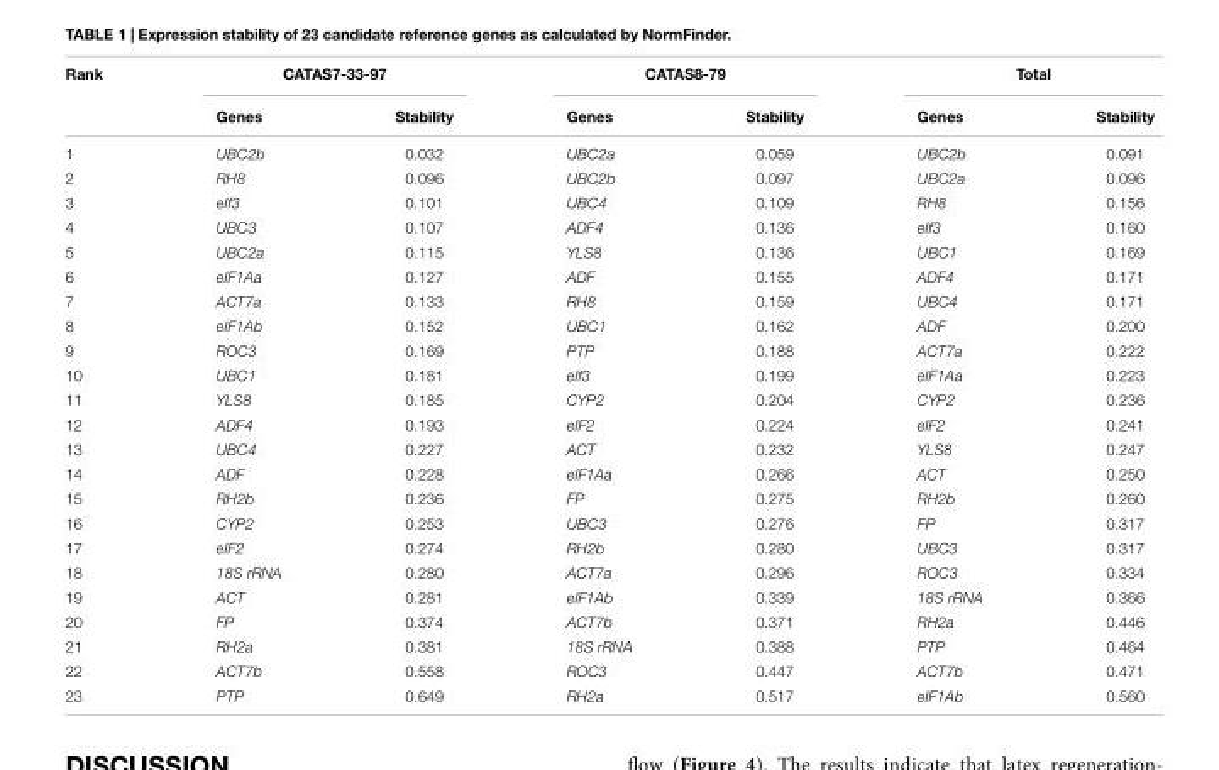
<table><thead><tr><td rowspan="2">Rank</td><td colspan="2">CATAS7-33-97</td><td colspan="2">CATAS8-79</td><td colspan="2">Total</td></tr><tr><td>Genes</td><td>Stability</td><td>Genes</td><td>Stability</td><td>Genes</td><td>Stability</td></tr></thead><tbody><tr><td>1</td><td>UBC2b</td><td>0.032</td><td>UBC2a</td><td>0.059</td><td>UBC2b</td><td>0.091</td></tr><tr><td>2</td><td>RH8</td><td>0.096</td><td>UBC2b</td><td>0.097</td><td>UBC2a</td><td>0.096</td></tr><tr><td>3</td><td>eIf3</td><td>0.101</td><td>UBC4</td><td>0.109</td><td>RH8</td><td>0.156</td></tr><tr><td>4</td><td>UBC3</td><td>0.107</td><td>ADF4</td><td>0.136</td><td>eIf3</td><td>0.160</td></tr><tr><td>5</td><td>UBC2a</td><td>0.115</td><td>YLS8</td><td>0.136</td><td>UBC1</td><td>0.169</td></tr><tr><td>6</td><td>eIF1Aa</td><td>0.127</td><td>ADF</td><td>0.155</td><td>ADF4</td><td>0.171</td></tr><tr><td>7</td><td>ACT7a</td><td>0.133</td><td>RH8</td><td>0.159</td><td>UBC4</td><td>0.171</td></tr><tr><td>8</td><td>eIF1Ab</td><td>0.152</td><td>UBC1</td><td>0.162</td><td>ADF</td><td>0.200</td></tr><tr><td>9</td><td>ROC3</td><td>0.169</td><td>PTP</td><td>0.188</td><td>ACT7a</td><td>0.222</td></tr><tr><td>10</td><td>UBC1</td><td>0.181</td><td>eIf3</td><td>0.199</td><td>eIF1Aa</td><td>0.223</td></tr><tr><td>11</td><td>YLS8</td><td>0.185</td><td>CYP2</td><td>0.204</td><td>CYP2</td><td>0.236</td></tr><tr><td>12</td><td>ADF4</td><td>0.193</td><td>eIF2</td><td>0.224</td><td>eIF2</td><td>0.241</td></tr><tr><td>13</td><td>UBC4</td><td>0.227</td><td>ACT</td><td>0.232</td><td>YLS8</td><td>0.247</td></tr><tr><td>14</td><td>ADF</td><td>0.228</td><td>eIF1Aa</td><td>0.266</td><td>ACT</td><td>0.250</td></tr><tr><td>15</td><td>RH2b</td><td>0.236</td><td>FP</td><td>0.275</td><td>RH2b</td><td>0.260</td></tr><tr><td>16</td><td>CYP2</td><td>0.253</td><td>UBC3</td><td>0.276</td><td>FP</td><td>0.317</td></tr><tr><td>17</td><td>eIF2</td><td>0.274</td><td>RH2b</td><td>0.280</td><td>UBC3</td><td>0.317</td></tr><tr><td>18</td><td>18S rRNA</td><td>0.280</td><td>ACT7a</td><td>0.296</td><td>ROC3</td><td>0.334</td></tr><tr><td>19</td><td>ACT</td><td>0.281</td><td>eIF1Ab</td><td>0.339</td><td>18S rRNA</td><td>0.366</td></tr><tr><td>20</td><td>FP</td><td>0.374</td><td>ACT7b</td><td>0.371</td><td>RH2a</td><td>0.446</td></tr><tr><td>21</td><td>RH2a</td><td>0.381</td><td>18S rRNA</td><td>0.388</td><td>PTP</td><td>0.464</td></tr><tr><td>22</td><td>ACT7b</td><td>0.558</td><td>ROC3</td><td>0.447</td><td>ACT7b</td><td>0.471</td></tr><tr><td>23</td><td>PTP</td><td>0.649</td><td>RH2a</td><td>0.517</td><td>eIF1Ab</td><td>0.560</td></tr></tbody></table>